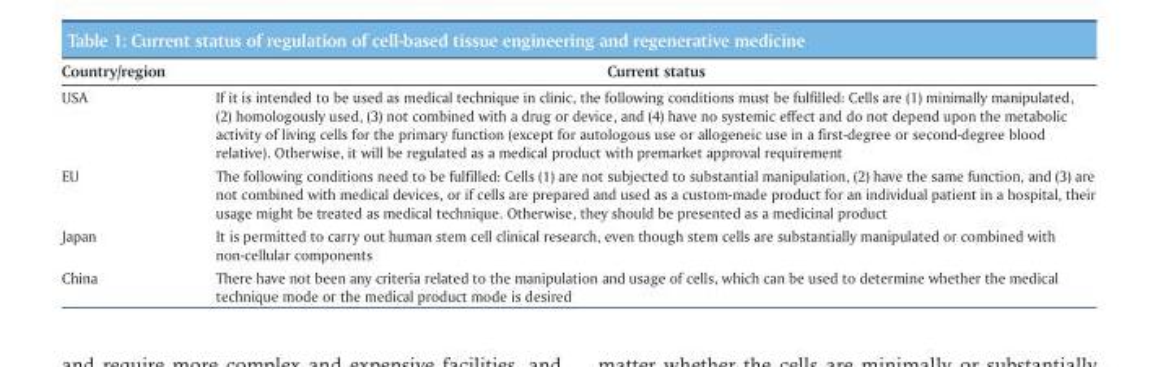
<table><thead><tr><td>Country/region</td><td>Current status</td></tr></thead><tbody><tr><td>USA</td><td>If it is intended to be used as medical technique in clinic, the following conditions must be fulfilled: Cells are (1) minimally manipulated, (2) homologously used, (3) not combined with a drug or device, and (4) have no systemic effect and do not depend upon the metabolic activity of living cells for the primary function (except for autologous use or allogeneic use in a first-degree or second-degree blood relative). Otherwise, it will be regulated as a medical product with premarket approval requirement</td></tr><tr><td>EU</td><td>The following conditions need to be fulfilled: Cells (1) are not subjected to substantial manipulation, (2) have the same function, and (3) are not combined with medical devices, or if cells are prepared and used as a custom-made product for an individual patient in a hospital, their usage might be treated as medical technique. Otherwise, they should be presented as a medicinal product</td></tr><tr><td>Japan</td><td>It is permitted to carry out human stem cell clinical research, even though stem cells are substantially manipulated or combined with non-cellular components</td></tr><tr><td>China</td><td>There have not been any criteria related to the manipulation and usage of cells, which can be used to determine whether the medical technique mode or the medical product mode is desired</td></tr></tbody></table>